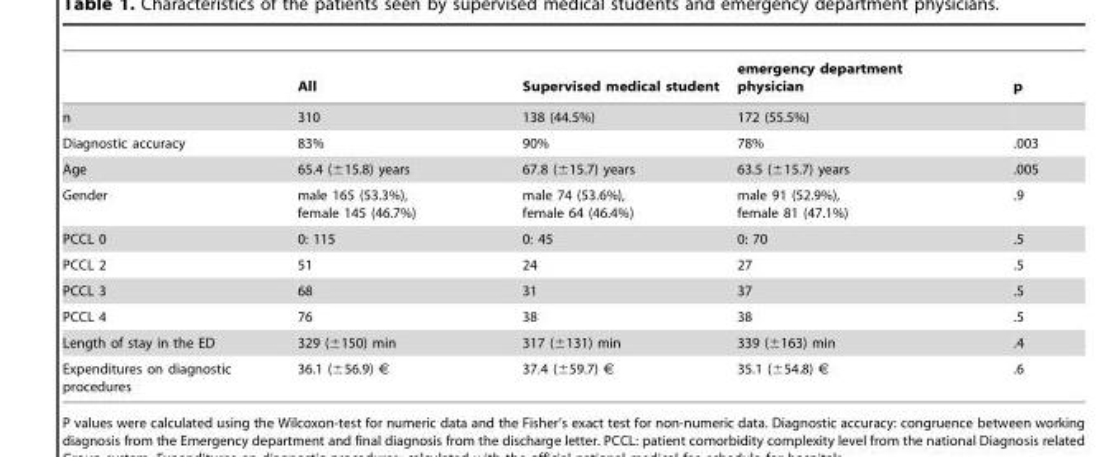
<table><thead><tr><td></td><td>All</td><td>Supervised medical student</td><td>emergency department physician</td><td>p</td></tr></thead><tbody><tr><td>n</td><td>310</td><td>138 (44.5%)</td><td>172 (55.5%)</td><td></td></tr><tr><td>Diagnostic accuracy</td><td>83%</td><td>90%</td><td>78%</td><td>.003</td></tr><tr><td>Age</td><td>65.4 (±15.8) years</td><td>67.8 (±15.7) years</td><td>63.5 (±15.7) years</td><td>.005</td></tr><tr><td>Gender</td><td>male 165 (53.3%), female 145 (46.7%)</td><td>male 74 (53.6%), female 64 (46.4%)</td><td>male 91 (52.9%), female 81 (47.1%)</td><td>.9</td></tr><tr><td>PCCL 0</td><td>0: 115</td><td>0: 45</td><td>0: 70</td><td>.5</td></tr><tr><td>PCCL 2</td><td>51</td><td>24</td><td>27</td><td>.5</td></tr><tr><td>PCCL 3</td><td>68</td><td>31</td><td>37</td><td>.5</td></tr><tr><td>PCCL 4</td><td>76</td><td>38</td><td>38</td><td>.5</td></tr><tr><td>Length of stay in the ED</td><td>329 (±150) min</td><td>317 (±131) min</td><td>339 (±163) min</td><td>.4</td></tr><tr><td>Expenditures on diagnostic procedures</td><td>36.1 (±56.9) €</td><td>37.4 (±59.7) €</td><td>35.1 (±54.8) €</td><td>.6</td></tr></tbody></table>